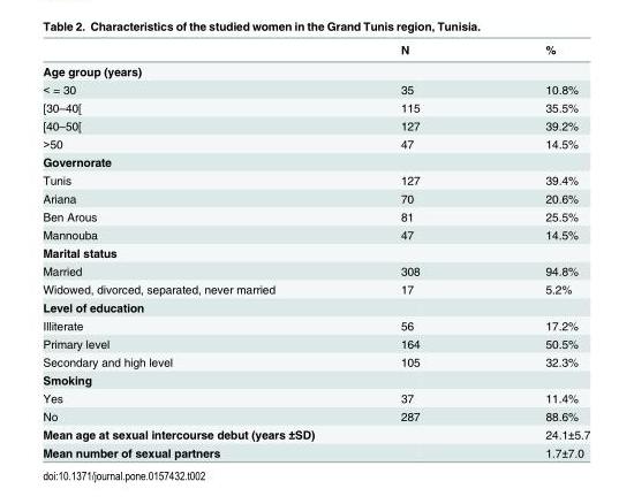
<table><thead><tr><td></td><td>N</td><td>%</td></tr></thead><tbody><tr><td colspan="3">Age group (years)</td></tr><tr><td>&lt; = 30</td><td>35</td><td>10.8%</td></tr><tr><td>[30–40[</td><td>115</td><td>35.5%</td></tr><tr><td>[40–50[</td><td>127</td><td>39.2%</td></tr><tr><td>&gt;50</td><td>47</td><td>14.5%</td></tr><tr><td colspan="3">Governorate</td></tr><tr><td>Tunis</td><td>127</td><td>39.4%</td></tr><tr><td>Ariana</td><td>70</td><td>20.6%</td></tr><tr><td>Ben Arous</td><td>81</td><td>25.5%</td></tr><tr><td>Mannouba</td><td>47</td><td>14.5%</td></tr><tr><td colspan="3">Marital status</td></tr><tr><td>Married</td><td>308</td><td>94.8%</td></tr><tr><td>Widowed, divorced, separated, never married</td><td>17</td><td>5.2%</td></tr><tr><td colspan="3">Level of education</td></tr><tr><td>Illiterate</td><td>56</td><td>17.2%</td></tr><tr><td>Primary level</td><td>164</td><td>50.5%</td></tr><tr><td>Secondary and high level</td><td>105</td><td>32.3%</td></tr><tr><td colspan="3">Smoking</td></tr><tr><td>Yes</td><td>37</td><td>11.4%</td></tr><tr><td>No</td><td>287</td><td>88.6%</td></tr><tr><td colspan="2">Mean age at sexual intercourse debut (years ±SD)</td><td>24.1±5.7</td></tr><tr><td colspan="2">Mean number of sexual partners</td><td>1.7±7.0</td></tr></tbody></table>